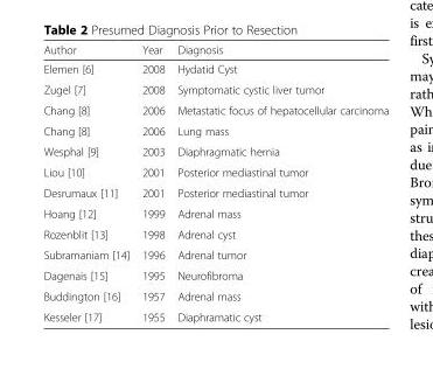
<table><thead><tr><td>Author</td><td>Year</td><td>Diagnosis</td></tr></thead><tbody><tr><td>Elemen [6]</td><td>2008</td><td>Hydatid Cyst</td></tr><tr><td>Zugel [7]</td><td>2008</td><td>Symptomatic cystic liver tumor</td></tr><tr><td>Chang [8]</td><td>2006</td><td>Metastatic focus of hepatocellular carcinoma</td></tr><tr><td>Chang [8]</td><td>2006</td><td>Lung mass</td></tr><tr><td>Wesphal [9]</td><td>2003</td><td>Diaphragmatic hernia</td></tr><tr><td>Liou [10]</td><td>2001</td><td>Posterior mediastinal tumor</td></tr><tr><td>Desrumaux [11]</td><td>2001</td><td>Posterior mediastinal tumor</td></tr><tr><td>Hoang [12]</td><td>1999</td><td>Adrenal mass</td></tr><tr><td>Rozenblit [13]</td><td>1998</td><td>Adrenal cyst</td></tr><tr><td>Subramaniam [14]</td><td>1996</td><td>Adrenal tumor</td></tr><tr><td>Dagenais [15]</td><td>1995</td><td>Neurofibroma</td></tr><tr><td>Buddington [16]</td><td>1957</td><td>Adrenal mass</td></tr><tr><td>Kesseler [17]</td><td>1955</td><td>Diaphramatic cyst</td></tr></tbody></table>